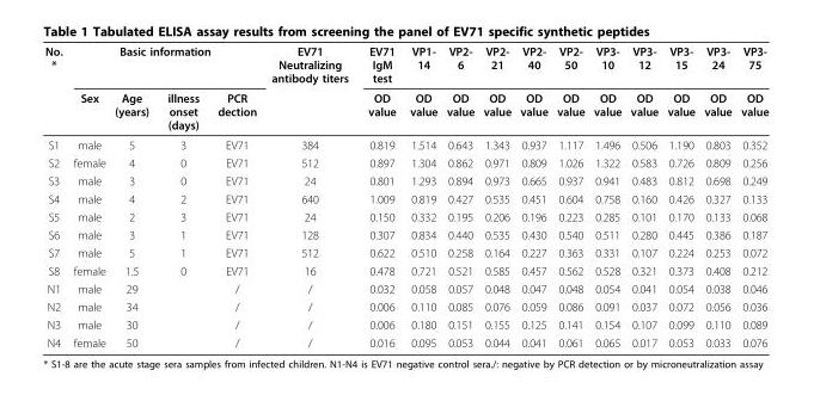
<table><thead><tr><td rowspan="2">No. *</td><td colspan="4">Basic information</td><td rowspan="2">EV71 Neutralizing antibody titers</td><td rowspan="2">EV71 IgM test OD value</td><td rowspan="2">VP1- 14 OD value</td><td rowspan="2">VP2- 6 OD value</td><td rowspan="2">VP2- 21 OD value</td><td rowspan="2">VP2- 40 OD value</td><td rowspan="2">VP2- 50 OD value</td><td rowspan="2">VP3- 10 OD value</td><td rowspan="2">VP3- 12 OD value</td><td rowspan="2">VP3- 15 OD value</td><td rowspan="2">VP3- 24 OD value</td><td rowspan="2">VP3- 75 OD value</td></tr><tr><td>Sex</td><td>Age (years)</td><td>illness onset (days)</td><td>PCR dection</td></tr></thead><tbody><tr><td>S1</td><td>male</td><td>5</td><td>3</td><td>EV71</td><td>384</td><td>0.819</td><td>1.514</td><td>0.643</td><td>1.343</td><td>0.937</td><td>1.117</td><td>1.496</td><td>0.506</td><td>1.190</td><td>0.803</td><td>0.352</td></tr><tr><td>S2</td><td>female</td><td>4</td><td>0</td><td>EV71</td><td>512</td><td>0.897</td><td>1.304</td><td>0.862</td><td>0.971</td><td>0.809</td><td>1.026</td><td>1.322</td><td>0.583</td><td>0.726</td><td>0.809</td><td>0.256</td></tr><tr><td>S3</td><td>male</td><td>3</td><td>0</td><td>EV71</td><td>24</td><td>0.801</td><td>1.293</td><td>0.894</td><td>0.973</td><td>0.665</td><td>0.937</td><td>0.941</td><td>0.483</td><td>0.812</td><td>0.698</td><td>0.249</td></tr><tr><td>S4</td><td>male</td><td>4</td><td>2</td><td>EV71</td><td>640</td><td>1.009</td><td>0.819</td><td>0.427</td><td>0.535</td><td>0.451</td><td>0.604</td><td>0.758</td><td>0.160</td><td>0.426</td><td>0.327</td><td>0.133</td></tr><tr><td>S5</td><td>male</td><td>2</td><td>3</td><td>EV71</td><td>24</td><td>0.150</td><td>0.332</td><td>0.195</td><td>0.206</td><td>0.196</td><td>0.223</td><td>0.285</td><td>0.101</td><td>0.170</td><td>0.133</td><td>0.068</td></tr><tr><td>S6</td><td>male</td><td>3</td><td>1</td><td>EV71</td><td>128</td><td>0.307</td><td>0.834</td><td>0.440</td><td>0.535</td><td>0.430</td><td>0.540</td><td>0.511</td><td>0.280</td><td>0.445</td><td>0.386</td><td>0.187</td></tr><tr><td>S7</td><td>male</td><td>5</td><td>1</td><td>EV71</td><td>512</td><td>0.622</td><td>0.510</td><td>0.258</td><td>0.164</td><td>0.227</td><td>0.363</td><td>0.331</td><td>0.107</td><td>0.224</td><td>0.253</td><td>0.072</td></tr><tr><td>S8</td><td>female</td><td>1.5</td><td>0</td><td>EV71</td><td>16</td><td>0.478</td><td>0.721</td><td>0.521</td><td>0.585</td><td>0.457</td><td>0.562</td><td>0.528</td><td>0.321</td><td>0.373</td><td>0.408</td><td>0.212</td></tr><tr><td>N1</td><td>male</td><td>29</td><td></td><td>/</td><td>/</td><td>0.032</td><td>0.058</td><td>0.057</td><td>0.048</td><td>0.047</td><td>0.048</td><td>0.054</td><td>0.041</td><td>0.054</td><td>0.038</td><td>0.046</td></tr><tr><td>N2</td><td>male</td><td>34</td><td></td><td>/</td><td>/</td><td>0.006</td><td>0.110</td><td>0.085</td><td>0.076</td><td>0.059</td><td>0.086</td><td>0.091</td><td>0.037</td><td>0.072</td><td>0.056</td><td>0.036</td></tr><tr><td>N3</td><td>male</td><td>30</td><td></td><td>/</td><td>/</td><td>0.006</td><td>0.180</td><td>0.151</td><td>0.155</td><td>0.125</td><td>0.141</td><td>0.154</td><td>0.107</td><td>0.099</td><td>0.110</td><td>0.089</td></tr><tr><td>N4</td><td>female</td><td>50</td><td></td><td>/</td><td>/</td><td>0.016</td><td>0.095</td><td>0.053</td><td>0.044</td><td>0.041</td><td>0.061</td><td>0.065</td><td>0.017</td><td>0.053</td><td>0.033</td><td>0.076</td></tr></tbody></table>